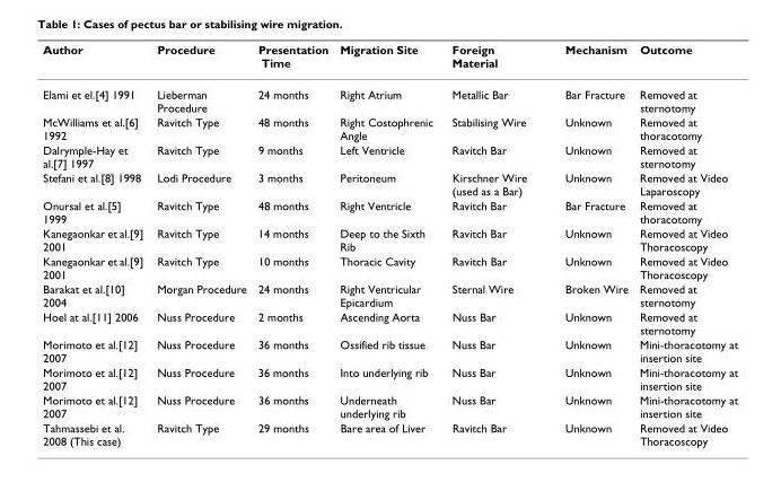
<table><thead><tr><td>Author</td><td>Procedure</td><td>Presentation Time</td><td>Migration Site</td><td>Foreign Material</td><td>Mechanism</td><td>Outcome</td></tr></thead><tbody><tr><td>Elami et el.[4] 1991</td><td>Lieberman Procedure</td><td>24 months</td><td>Right Atrium</td><td>Metallic Bar</td><td>Bar Fracture</td><td>Removed at sternotomy</td></tr><tr><td>McWilliams et al.[6] 1992</td><td>Ravitch Type</td><td>48 months</td><td>Right Costophrenic Angle</td><td>Stabilising Wire</td><td>Unknown</td><td>Removed at thoracotomy</td></tr><tr><td>Dalrymple-Hay et al.[7] 1997</td><td>Ravitch Type</td><td>9 months</td><td>Left Ventricle</td><td>Ravitch Bar</td><td>Unknown</td><td>Removed at sternotomy</td></tr><tr><td>Stefani et al.[8] 1998</td><td>Lodi Procedure</td><td>3 months</td><td>Peritoneum</td><td>Kirschner Wire (used as a Bar)</td><td>Unknown</td><td>Removed at Video Laparoscopy</td></tr><tr><td>Onursal et al.[5] 1999</td><td>Ravitch Type</td><td>48 months</td><td>Right Ventricle</td><td>Ravitch Bar</td><td>Bar Fracture</td><td>Removed at thoracotomy</td></tr><tr><td>Kanegaonkar et al.[9] 2001</td><td>Ravitch Type</td><td>14 months</td><td>Deep to the Sixth Rib</td><td>Ravitch Bar</td><td>Unknown</td><td>Removed at Video Thoracoscopy</td></tr><tr><td>Kanegaonkar et al.[9] 2001</td><td>Ravitch Type</td><td>10 months</td><td>Thoracic Cavity</td><td>Ravitch Bar</td><td>Unknown</td><td>Removed at Video Thoracoscopy</td></tr><tr><td>Barakat et al.[10] 2004</td><td>Morgan Procedure</td><td>24 months</td><td>Right Ventricular Epicardium</td><td>Sternal Wire</td><td>Broken Wire</td><td>Removed at sternotomy</td></tr><tr><td>Hoel at al.[11] 2006</td><td>Nuss Procedure</td><td>2 months</td><td>Ascending Aorta</td><td>Nuss Bar</td><td>Unknown</td><td>Removed at sternotomy</td></tr><tr><td>Morimoto et al.[12] 2007</td><td>Nuss Procedure</td><td>36 months</td><td>Ossified rib tissue</td><td>Nuss Bar</td><td>Unknown</td><td>Mini-thoracotomy at insertion site</td></tr><tr><td>Morimoto et al.[12] 2007</td><td>Nuss Procedure</td><td>36 months</td><td>Into underlying rib</td><td>Nuss Bar</td><td>Unknown</td><td>Mini-thoracotomy at insertion site</td></tr><tr><td>Morimoto et al.[12] 2007</td><td>Nuss Procedure</td><td>36 months</td><td>Underneath underlying rib</td><td>Nuss Bar</td><td>Unknown</td><td>Mini-thoracotomy at insertion site</td></tr><tr><td>Tahmassebi et al. 2008 (This case)</td><td>Ravitch Type</td><td>29 months</td><td>Bare area of Liver</td><td>Ravitch Bar</td><td>Unknown</td><td>Removed at Video Thoracoscopy</td></tr></tbody></table>